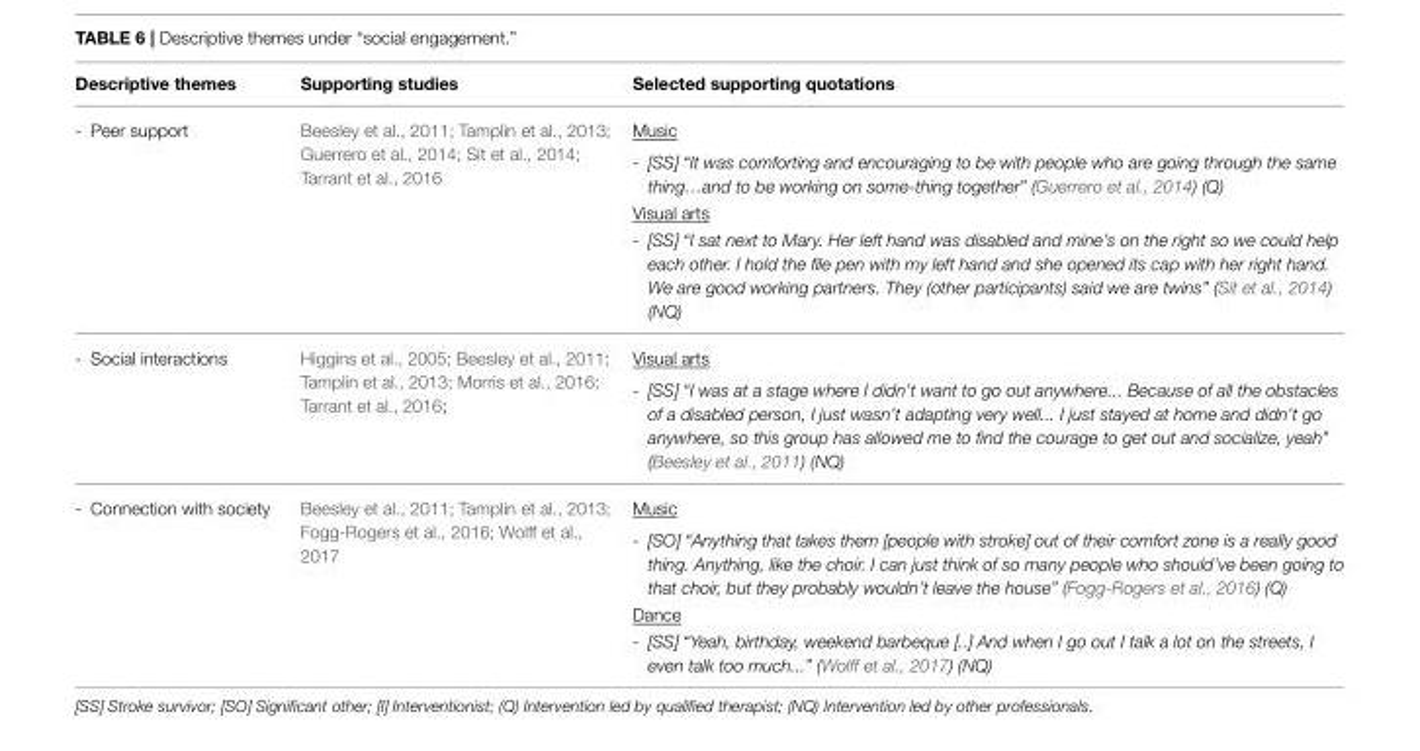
<table><thead><tr><td>Descriptive themes</td><td>Supporting studies</td><td>Selected supporting quotations</td></tr></thead><tbody><tr><td>- Peer support</td><td>Beesley et al., 2011; Tamplin et al., 2013; Guerrero et al., 2014; Sit et al., 2014; Tarrant et al., 2016</td><td>Music - [SS] “It was comforting and encouraging to be with people who are going through the same thing…and to be working on some-thing together” (Guerrero et al., 2014) (Q) Visual arts - [SS] “I sat next to Mary. Her left hand was disabled and mine’s on the right so we could help each other. I hold the file pen with my left hand and she opened its cap with her right hand. We are good working partners. They (other participants) said we are twins” (Sit et al., 2014) (NQ)</td></tr><tr><td>- Social interactions</td><td>Higgins et al., 2005; Beesley et al., 2011; Tamplin et al., 2013; Morris et al., 2016; Tarrant et al., 2016;</td><td>Visual arts - [SS] “I was at a stage where I didn’t want to go out anywhere... Because of all the obstacles of a disabled person, I just wasn’t adapting very well... I just stayed at home and didn’t go anywhere, so this group has allowed me to find the courage to get out and socialize, yeah” (Beesley et al., 2011) (NQ)</td></tr><tr><td>- Connection with society</td><td>Beesley et al., 2011; Tamplin et al., 2013; Fogg-Rogers et al., 2016; Wolff et al., 2017</td><td>Music - [SO] “Anything that takes them [people with stroke] out of their comfort zone is a really good thing. Anything, like the choir. I can just think of so many people who should’ve been going to that choir, but they probably wouldn’t leave the house” (Fogg-Rogers et al., 2016) (Q) Dance - [SS] “Yeah, birthday, weekend barbeque [..] And when I go out I talk a lot on the streets, I even talk too much...” (Wolff et al., 2017) (NQ)</td></tr></tbody></table>